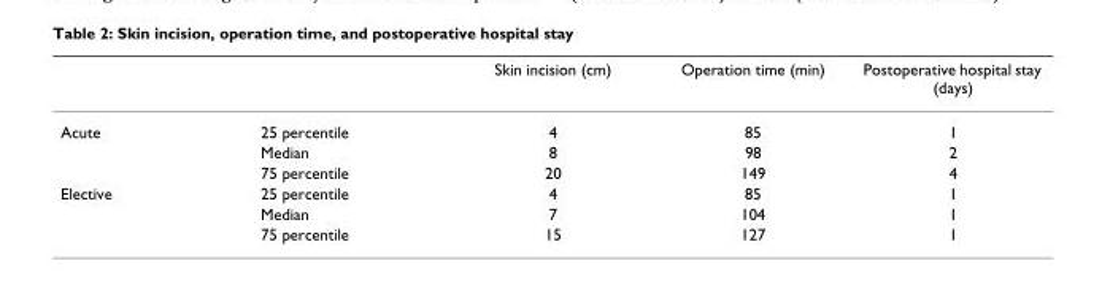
<table><thead><tr><td></td><td></td><td>Skin incision (cm)</td><td>Operation time (min)</td><td>Postoperative hospital stay (days)</td></tr></thead><tbody><tr><td rowspan="3">Acute</td><td>25 percentile</td><td>4</td><td>85</td><td>1</td></tr><tr><td>Median</td><td>8</td><td>98</td><td>2</td></tr><tr><td>75 percentile</td><td>20</td><td>149</td><td>4</td></tr><tr><td rowspan="3">Elective</td><td>25 percentile</td><td>4</td><td>85</td><td>1</td></tr><tr><td>Median</td><td>7</td><td>104</td><td>1</td></tr><tr><td>75 percentile</td><td>15</td><td>127</td><td>1</td></tr></tbody></table>